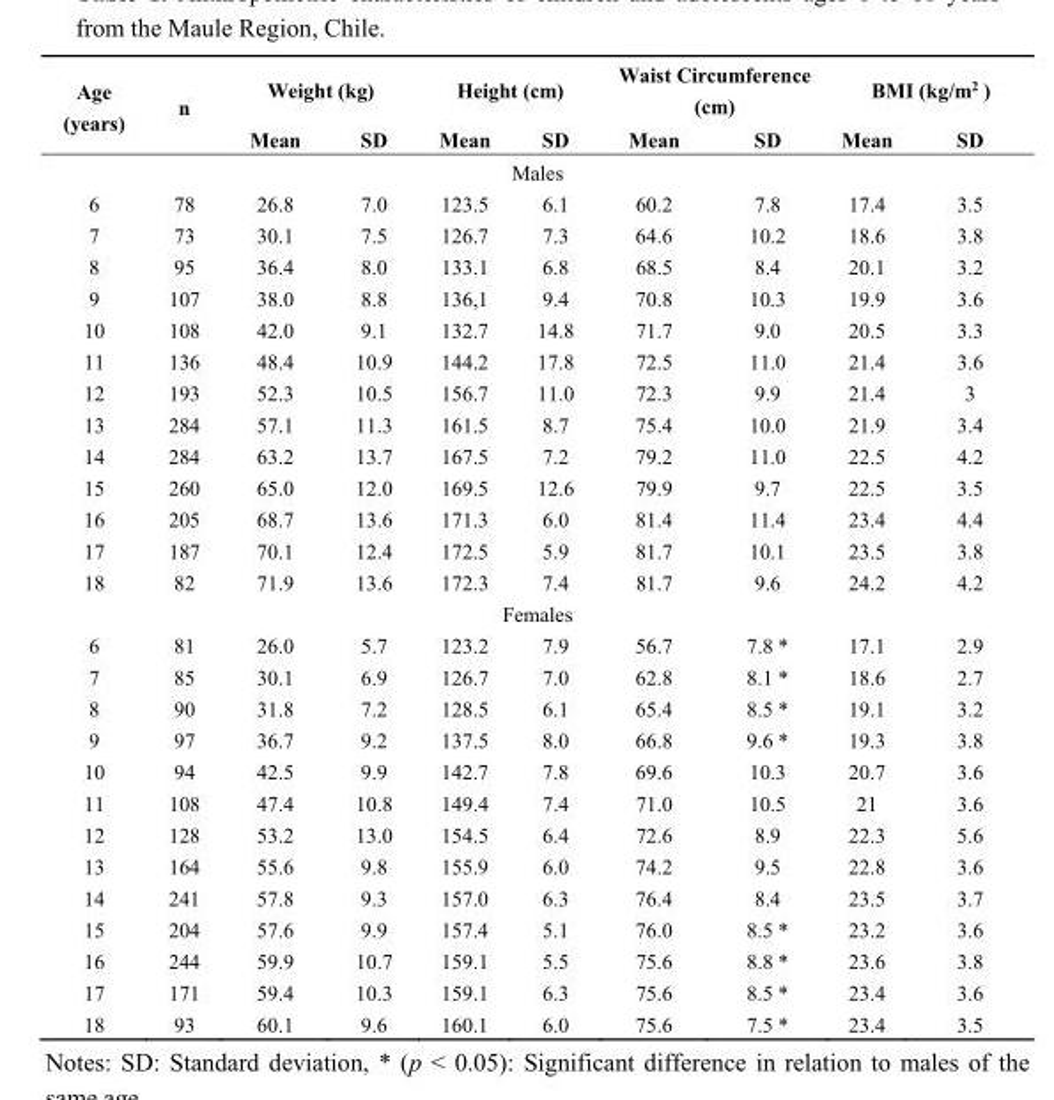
<table><thead><tr><td rowspan="2">Age (years)</td><td rowspan="2">n</td><td colspan="2">Weight (kg)</td><td colspan="2">Height (cm)</td><td colspan="2">Waist Circumference (cm)</td><td colspan="2">BMI (kg/m<sup>2</sup> )</td></tr><tr><td>Mean</td><td>SD</td><td>Mean</td><td>SD</td><td>Mean</td><td>SD</td><td>Mean</td><td>SD</td></tr></thead><tbody><tr><td colspan="10">Males</td></tr><tr><td>6</td><td>78</td><td>26.8</td><td>7.0</td><td>123.5</td><td>6.1</td><td>60.2</td><td>7.8</td><td>17.4</td><td>3.5</td></tr><tr><td>7</td><td>73</td><td>30.1</td><td>7.5</td><td>126.7</td><td>7.3</td><td>64.6</td><td>10.2</td><td>18.6</td><td>3.8</td></tr><tr><td>8</td><td>95</td><td>36.4</td><td>8.0</td><td>133.1</td><td>6.8</td><td>68.5</td><td>8.4</td><td>20.1</td><td>3.2</td></tr><tr><td>9</td><td>107</td><td>38.0</td><td>8.8</td><td>136,1</td><td>9.4</td><td>70.8</td><td>10.3</td><td>19.9</td><td>3.6</td></tr><tr><td>10</td><td>108</td><td>42.0</td><td>9.1</td><td>132.7</td><td>14.8</td><td>71.7</td><td>9.0</td><td>20.5</td><td>3.3</td></tr><tr><td>11</td><td>136</td><td>48.4</td><td>10.9</td><td>144.2</td><td>17.8</td><td>72.5</td><td>11.0</td><td>21.4</td><td>3.6</td></tr><tr><td>12</td><td>193</td><td>52.3</td><td>10.5</td><td>156.7</td><td>11.0</td><td>72.3</td><td>9.9</td><td>21.4</td><td>3</td></tr><tr><td>13</td><td>284</td><td>57.1</td><td>11.3</td><td>161.5</td><td>8.7</td><td>75.4</td><td>10.0</td><td>21.9</td><td>3.4</td></tr><tr><td>14</td><td>284</td><td>63.2</td><td>13.7</td><td>167.5</td><td>7.2</td><td>79.2</td><td>11.0</td><td>22.5</td><td>4.2</td></tr><tr><td>15</td><td>260</td><td>65.0</td><td>12.0</td><td>169.5</td><td>12.6</td><td>79.9</td><td>9.7</td><td>22.5</td><td>3.5</td></tr><tr><td>16</td><td>205</td><td>68.7</td><td>13.6</td><td>171.3</td><td>6.0</td><td>81.4</td><td>11.4</td><td>23.4</td><td>4.4</td></tr><tr><td>17</td><td>187</td><td>70.1</td><td>12.4</td><td>172.5</td><td>5.9</td><td>81.7</td><td>10.1</td><td>23.5</td><td>3.8</td></tr><tr><td>18</td><td>82</td><td>71.9</td><td>13.6</td><td>172.3</td><td>7.4</td><td>81.7</td><td>9.6</td><td>24.2</td><td>4.2</td></tr><tr><td colspan="10">Females</td></tr><tr><td>6</td><td>81</td><td>26.0</td><td>5.7</td><td>123.2</td><td>7.9</td><td>56.7</td><td>7.8 *</td><td>17.1</td><td>2.9</td></tr><tr><td>7</td><td>85</td><td>30.1</td><td>6.9</td><td>126.7</td><td>7.0</td><td>62.8</td><td>8.1 *</td><td>18.6</td><td>2.7</td></tr><tr><td>8</td><td>90</td><td>31.8</td><td>7.2</td><td>128.5</td><td>6.1</td><td>65.4</td><td>8.5 *</td><td>19.1</td><td>3.2</td></tr><tr><td>9</td><td>97</td><td>36.7</td><td>9.2</td><td>137.5</td><td>8.0</td><td>66.8</td><td>9.6 *</td><td>19.3</td><td>3.8</td></tr><tr><td>10</td><td>94</td><td>42.5</td><td>9.9</td><td>142.7</td><td>7.8</td><td>69.6</td><td>10.3</td><td>20.7</td><td>3.6</td></tr><tr><td>11</td><td>108</td><td>47.4</td><td>10.8</td><td>149.4</td><td>7.4</td><td>71.0</td><td>10.5</td><td>21</td><td>3.6</td></tr><tr><td>12</td><td>128</td><td>53.2</td><td>13.0</td><td>154.5</td><td>6.4</td><td>72.6</td><td>8.9</td><td>22.3</td><td>5.6</td></tr><tr><td>13</td><td>164</td><td>55.6</td><td>9.8</td><td>155.9</td><td>6.0</td><td>74.2</td><td>9.5</td><td>22.8</td><td>3.6</td></tr><tr><td>14</td><td>241</td><td>57.8</td><td>9.3</td><td>157.0</td><td>6.3</td><td>76.4</td><td>8.4</td><td>23.5</td><td>3.7</td></tr><tr><td>15</td><td>204</td><td>57.6</td><td>9.9</td><td>157.4</td><td>5.1</td><td>76.0</td><td>8.5 *</td><td>23.2</td><td>3.6</td></tr><tr><td>16</td><td>244</td><td>59.9</td><td>10.7</td><td>159.1</td><td>5.5</td><td>75.6</td><td>8.8 *</td><td>23.6</td><td>3.8</td></tr><tr><td>17</td><td>171</td><td>59.4</td><td>10.3</td><td>159.1</td><td>6.3</td><td>75.6</td><td>8.5 *</td><td>23.4</td><td>3.6</td></tr><tr><td>18</td><td>93</td><td>60.1</td><td>9.6</td><td>160.1</td><td>6.0</td><td>75.6</td><td>7.5 *</td><td>23.4</td><td>3.5</td></tr></tbody></table>